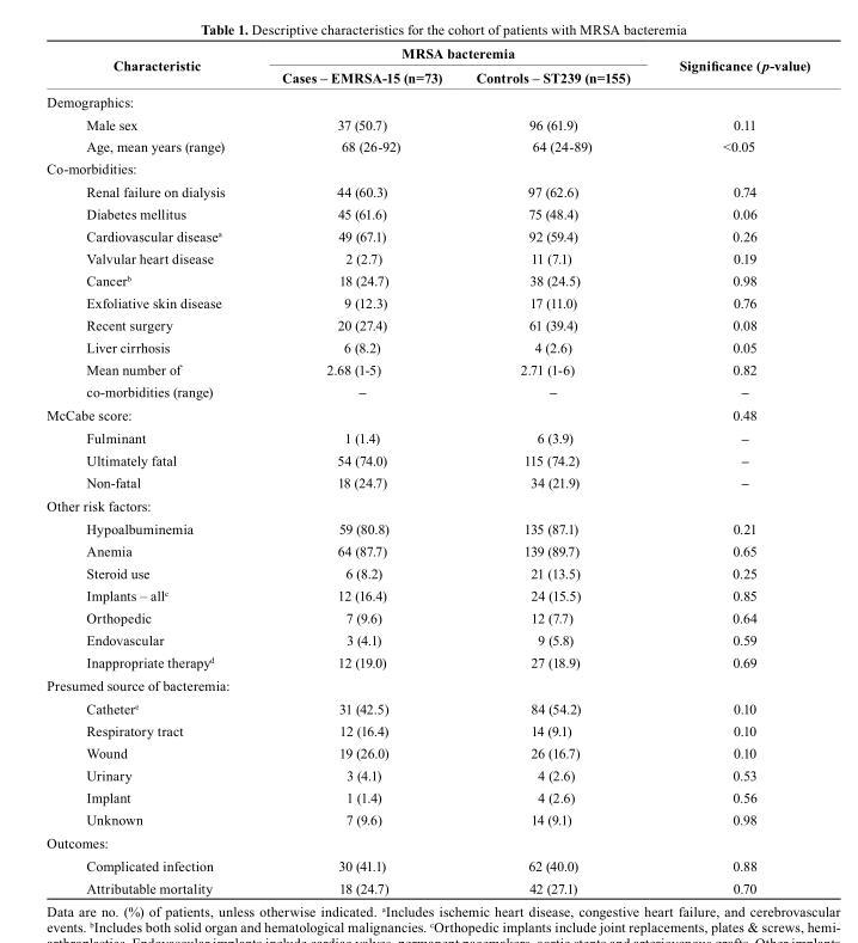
<table><thead><tr><td rowspan="2">characteristic</td><td colspan="2">MrsA bacteremia</td><td rowspan="2">Significance (p-value)</td></tr><tr><td>cases – EMrsA-15 (n=73)</td><td>controls – st239 (n=155)</td></tr></thead><tbody><tr><td colspan="4">Demographics:</td></tr><tr><td>Male sex</td><td>37 (50.7)</td><td>96 (61.9)</td><td>0.11</td></tr><tr><td>Age, mean years (range)</td><td>68 (26-92)</td><td>64 (24-89)</td><td>&lt;0.05</td></tr><tr><td colspan="4">Co-morbidities:</td></tr><tr><td>Renal failure on dialysis</td><td>44 (60.3)</td><td>97 (62.6)</td><td>0.74</td></tr><tr><td>Diabetes mellitus</td><td>45 (61.6)</td><td>75 (48.4)</td><td>0.06</td></tr><tr><td>Cardiovascular disease<sup>a</sup></td><td>49 (67.1)</td><td>92 (59.4)</td><td>0.26</td></tr><tr><td>Valvular heart disease</td><td>2 (2.7)</td><td>11 (7.1)</td><td>0.19</td></tr><tr><td>Cancer<sup>b</sup></td><td>18 (24.7)</td><td>38 (24.5)</td><td>0.98</td></tr><tr><td>Exfoliative skin disease</td><td>9 (12.3)</td><td>17 (11.0)</td><td>0.76</td></tr><tr><td>Recent surgery</td><td>20 (27.4)</td><td>61 (39.4)</td><td>0.08</td></tr><tr><td>Liver cirrhosis</td><td>6 (8.2)</td><td>4 (2.6)</td><td>0.05</td></tr><tr><td>Mean number of</td><td>2.68 (1-5)</td><td>2.71 (1-6)</td><td>0.82</td></tr><tr><td>co-morbidities (range)</td><td>–</td><td>–</td><td>–</td></tr><tr><td colspan="3">McCabe score:</td><td>0.48</td></tr><tr><td>Fulminant</td><td>1 (1.4)</td><td>6 (3.9)</td><td>–</td></tr><tr><td>Ultimately fatal</td><td>54 (74.0)</td><td>115 (74.2)</td><td>–</td></tr><tr><td>Non-fatal</td><td>18 (24.7)</td><td>34 (21.9)</td><td>–</td></tr><tr><td colspan="4">Other risk factors:</td></tr><tr><td>Hypoalbuminemia</td><td>59 (80.8)</td><td>135 (87.1)</td><td>0.21</td></tr><tr><td>Anemia</td><td>64 (87.7)</td><td>139 (89.7)</td><td>0.65</td></tr><tr><td>Steroid use</td><td>6 (8.2)</td><td>21 (13.5)</td><td>0.25</td></tr><tr><td>Implants – all<sup>c</sup></td><td>12 (16.4)</td><td>24 (15.5)</td><td>0.85</td></tr><tr><td>Orthopedic</td><td>7 (9.6)</td><td>12 (7.7)</td><td>0.64</td></tr><tr><td>Endovascular</td><td>3 (4.1)</td><td>9 (5.8)</td><td>0.59</td></tr><tr><td>Inappropriate therapy<sup>d</sup></td><td>12 (19.0)</td><td>27 (18.9)</td><td>0.69</td></tr><tr><td colspan="4">Presumed source of bacteremia:</td></tr><tr><td>Catheter<sup>e</sup></td><td>31 (42.5)</td><td>84 (54.2)</td><td>0.10</td></tr><tr><td>Respiratory tract</td><td>12 (16.4)</td><td>14 (9.1)</td><td>0.10</td></tr><tr><td>Wound</td><td>19 (26.0)</td><td>26 (16.7)</td><td>0.10</td></tr><tr><td>Urinary</td><td>3 (4.1)</td><td>4 (2.6)</td><td>0.53</td></tr><tr><td>Implant</td><td>1 (1.4)</td><td>4 (2.6)</td><td>0.56</td></tr><tr><td>Unknown</td><td>7 (9.6)</td><td>14 (9.1)</td><td>0.98</td></tr><tr><td colspan="4">Outcomes:</td></tr><tr><td>Complicated infection</td><td>30 (41.1)</td><td>62 (40.0)</td><td>0.88</td></tr><tr><td>Attributable mortality</td><td>18 (24.7)</td><td>42 (27.1)</td><td>0.70</td></tr></tbody></table>